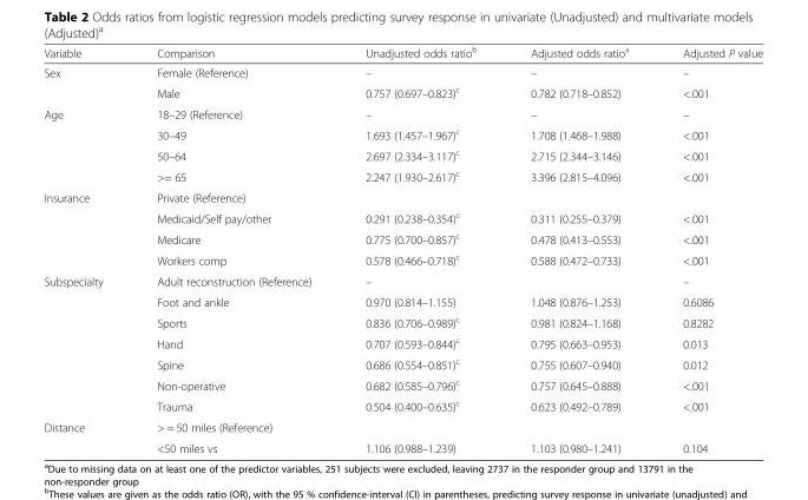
<table><thead><tr><td>Variable</td><td>Comparison</td><td>Unadjusted odds ratio<sup>b</sup></td><td>Adjusted odds ratio<sup>a</sup></td><td>Adjusted P value</td></tr></thead><tbody><tr><td rowspan="2">Sex</td><td>Female (Reference)</td><td>–</td><td>–</td><td>–</td></tr><tr><td>Male</td><td>0.757 (0.697–0.823)<sup>c</sup></td><td>0.782 (0.718–0.852)</td><td>&lt;.001</td></tr><tr><td rowspan="4">Age</td><td>18–29 (Reference)</td><td>–</td><td>–</td><td>–</td></tr><tr><td>30–49</td><td>1.693 (1.457–1.967)<sup>c</sup></td><td>1.708 (1.468–1.988)</td><td>&lt;.001</td></tr><tr><td>50–64</td><td>2.697 (2.334–3.117)<sup>c</sup></td><td>2.715 (2.344–3.146)</td><td>&lt;.001</td></tr><tr><td>&gt;= 65</td><td>2.247 (1.930–2.617)<sup>c</sup></td><td>3.396 (2.815–4.096)</td><td>&lt;.001</td></tr><tr><td rowspan="4">Insurance</td><td>Private (Reference)</td><td></td><td></td><td></td></tr><tr><td>Medicaid/Self pay/other</td><td>0.291 (0.238–0.354)<sup>c</sup></td><td>0.311 (0.255–0.379)</td><td>&lt;.001</td></tr><tr><td>Medicare</td><td>0.775 (0.700–0.857)<sup>c</sup></td><td>0.478 (0.413–0.553)</td><td>&lt;.001</td></tr><tr><td>Workers comp</td><td>0.578 (0.466–0.718)<sup>c</sup></td><td>0.588 (0.472–0.733)</td><td>&lt;.001</td></tr><tr><td rowspan="7">Subspecialty</td><td>Adult reconstruction (Reference)</td><td>–</td><td></td><td>–</td></tr><tr><td>Foot and ankle</td><td>0.970 (0.814–1.155)</td><td>1.048 (0.876–1.253)</td><td>0.6086</td></tr><tr><td>Sports</td><td>0.836 (0.706–0.989)<sup>c</sup></td><td>0.981 (0.824–1.168)</td><td>0.8282</td></tr><tr><td>Hand</td><td>0.707 (0.593–0.844)<sup>c</sup></td><td>0.795 (0.663–0.953)</td><td>0.013</td></tr><tr><td>Spine</td><td>0.686 (0.554–0.851)<sup>c</sup></td><td>0.755 (0.607–0.940)</td><td>0.012</td></tr><tr><td>Non-operative</td><td>0.682 (0.585–0.796)<sup>c</sup></td><td>0.757 (0.645–0.888)</td><td>&lt;.001</td></tr><tr><td>Trauma</td><td>0.504 (0.400–0.635)<sup>c</sup></td><td>0.623 (0.492–0.789)</td><td>&lt;.001</td></tr><tr><td rowspan="2">Distance</td><td>&gt; = 50 miles (Reference)</td><td></td><td></td><td></td></tr><tr><td>&lt;50 miles vs</td><td>1.106 (0.988–1.239)</td><td>1.103 (0.980–1.241)</td><td>0.104</td></tr></tbody></table>